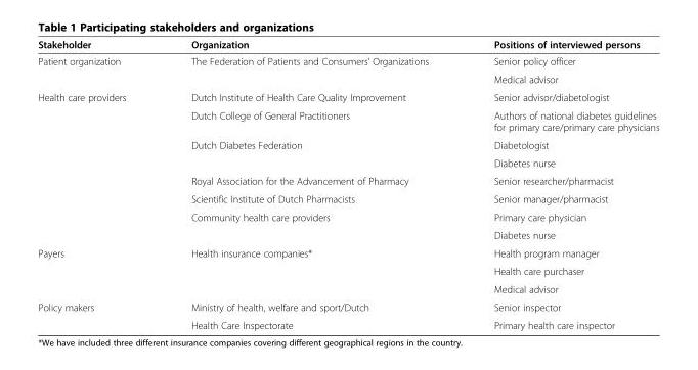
<table><thead><tr><td>Stakeholder</td><td>Organization</td><td>Positions of interviewed persons</td></tr></thead><tbody><tr><td rowspan="2">Patient organization</td><td>The Federation of Patients and Consumers’ Organizations</td><td>Senior policy officer</td></tr><tr><td></td><td>Medical advisor</td></tr><tr><td rowspan="8">Health care providers</td><td>Dutch Institute of Health Care Quality Improvement</td><td>Senior advisor/diabetologist</td></tr><tr><td>Dutch College of General Practitioners</td><td>Authors of national diabetes guidelines for primary care/primary care physicians</td></tr><tr><td>Dutch Diabetes Federation</td><td>Diabetologist</td></tr><tr><td></td><td>Diabetes nurse</td></tr><tr><td>Royal Association for the Advancement of Pharmacy</td><td>Senior researcher/pharmacist</td></tr><tr><td>Scientific Institute of Dutch Pharmacists</td><td>Senior manager/pharmacist</td></tr><tr><td>Community health care providers</td><td>Primary care physician</td></tr><tr><td></td><td>Diabetes nurse</td></tr><tr><td rowspan="3">Payers</td><td>Health insurance companies*</td><td>Health program manager</td></tr><tr><td></td><td>Health care purchaser</td></tr><tr><td></td><td>Medical advisor</td></tr><tr><td rowspan="2">Policy makers</td><td>Ministry of health, welfare and sport/Dutch</td><td>Senior inspector</td></tr><tr><td>Health Care Inspectorate</td><td>Primary health care inspector</td></tr></tbody></table>